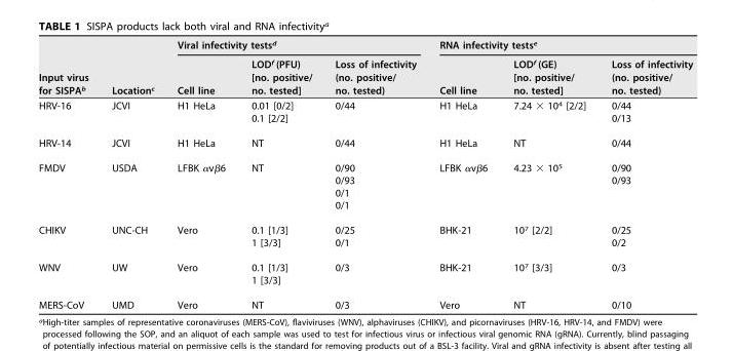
<table><thead><tr><td rowspan="2">Input virus for SISPA<sup>b</sup></td><td rowspan="2">Location<sup>c</sup></td><td colspan="3">Viral infectivity tests<sup>d</sup></td><td colspan="3">RNA infectivity tests<sup>e</sup></td></tr><tr><td>Cell line</td><td>LOD<sup>f</sup> (PFU) [no. positive/ no. tested]</td><td>Loss of infectivity (no. positive/ no. tested)</td><td>Cell line</td><td>LOD<sup>f</sup> (GE) [no. positive/ no. tested]</td><td>Loss of infectivity (no. positive/ no. tested)</td></tr></thead><tbody><tr><td rowspan="2">HRV-16</td><td>JCVI</td><td>H1 HeLa</td><td>0.01 [0/2]</td><td>0/44</td><td>H1 HeLa</td><td>7.24 × 10<sup>4</sup> [2/2]</td><td>0/44</td></tr><tr><td></td><td></td><td>0.1 [2/2]</td><td></td><td></td><td></td><td>0/13</td></tr><tr><td>HRV-14</td><td>JCVI</td><td>H1 HeLa</td><td>NT</td><td>0/44</td><td>H1 HeLa</td><td>NT</td><td>0/44</td></tr><tr><td rowspan="4">FMDV</td><td>USDA</td><td>LFBK αvβ6</td><td>NT</td><td>0/90</td><td>LFBK αvβ6</td><td>4.23 × 10<sup>5</sup></td><td>0/90</td></tr><tr><td></td><td></td><td></td><td>0/93</td><td></td><td></td><td>0/93</td></tr><tr><td></td><td></td><td></td><td>0/1</td><td></td><td></td><td></td></tr><tr><td></td><td></td><td></td><td>0/1</td><td></td><td></td><td></td></tr><tr><td rowspan="2">CHIKV</td><td>UNC-CH</td><td>Vero</td><td>0.1 [1/3]</td><td>0/25</td><td>BHK-21</td><td>10<sup>7</sup> [2/2]</td><td>0/25</td></tr><tr><td></td><td></td><td>1 [3/3]</td><td>0/1</td><td></td><td></td><td>0/2</td></tr><tr><td rowspan="2">WNV</td><td>UW</td><td>Vero</td><td>0.1 [1/3]</td><td>0/3</td><td>BHK-21</td><td>10<sup>7</sup> [3/3]</td><td>0/3</td></tr><tr><td></td><td></td><td>1 [3/3]</td><td></td><td></td><td></td><td></td></tr><tr><td>MERS-CoV</td><td>UMD</td><td>Vero</td><td>NT</td><td>0/3</td><td>Vero</td><td>NT</td><td>0/10</td></tr></tbody></table>